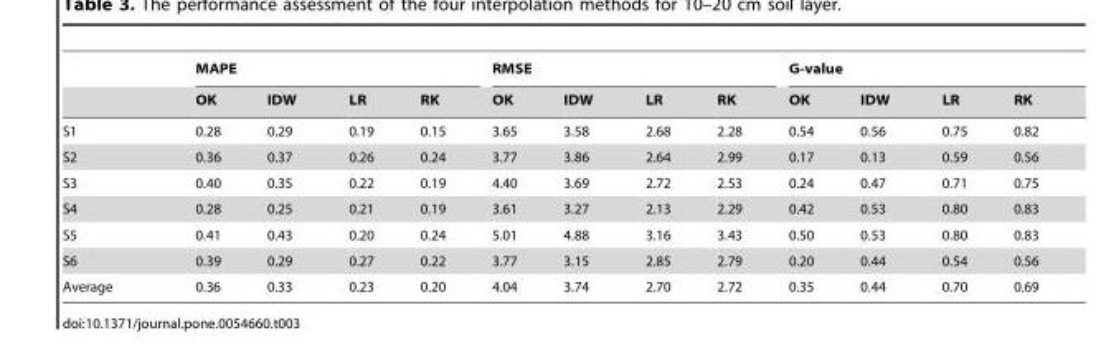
<table><thead><tr><td rowspan="2"></td><td colspan="4">MAPE</td><td colspan="4">RMSE</td><td colspan="4">G-value</td></tr><tr><td>OK</td><td>IDW</td><td>LR</td><td>RK</td><td>OK</td><td>IDW</td><td>LR</td><td>RK</td><td>OK</td><td>IDW</td><td>LR</td><td>RK</td></tr></thead><tbody><tr><td>S1</td><td>0.28</td><td>0.29</td><td>0.19</td><td>0.15</td><td>3.65</td><td>3.58</td><td>2.68</td><td>2.28</td><td>0.54</td><td>0.56</td><td>0.75</td><td>0.82</td></tr><tr><td>S2</td><td>0.36</td><td>0.37</td><td>0.26</td><td>0.24</td><td>3.77</td><td>3.86</td><td>2.64</td><td>2.99</td><td>0.17</td><td>0.13</td><td>0.59</td><td>0.56</td></tr><tr><td>S3</td><td>0.40</td><td>0.35</td><td>0.22</td><td>0.19</td><td>4.40</td><td>3.69</td><td>2.72</td><td>2.53</td><td>0.24</td><td>0.47</td><td>0.71</td><td>0.75</td></tr><tr><td>S4</td><td>0.28</td><td>0.25</td><td>0.21</td><td>0.19</td><td>3.61</td><td>3.27</td><td>2.13</td><td>2.29</td><td>0.42</td><td>0.53</td><td>0.80</td><td>0.83</td></tr><tr><td>S5</td><td>0.41</td><td>0.43</td><td>0.20</td><td>0.24</td><td>5.01</td><td>4.88</td><td>3.16</td><td>3.43</td><td>0.50</td><td>0.53</td><td>0.80</td><td>0.83</td></tr><tr><td>S6</td><td>0.39</td><td>0.29</td><td>0.27</td><td>0.22</td><td>3.77</td><td>3.15</td><td>2.85</td><td>2.79</td><td>0.20</td><td>0.44</td><td>0.54</td><td>0.56</td></tr><tr><td>Average</td><td>0.36</td><td>0.33</td><td>0.23</td><td>0.20</td><td>4.04</td><td>3.74</td><td>2.70</td><td>2.72</td><td>0.35</td><td>0.44</td><td>0.70</td><td>0.69</td></tr></tbody></table>